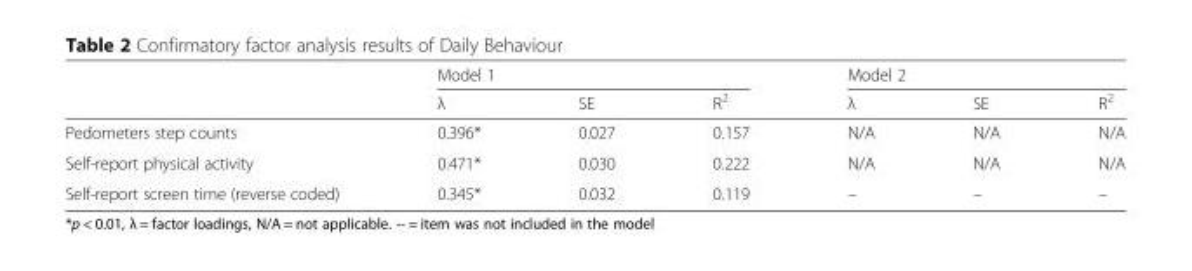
<table><thead><tr><td rowspan="2"></td><td colspan="3">Model 1</td><td colspan="3">Model 2</td></tr><tr><td>λ</td><td>SE</td><td>R<sup>2</sup></td><td>λ</td><td>SE</td><td>R<sup>2</sup></td></tr></thead><tbody><tr><td>Pedometers step counts</td><td>0.396*</td><td>0.027</td><td>0.157</td><td>N/A</td><td>N/A</td><td>N/A</td></tr><tr><td>Self-report physical activity</td><td>0.471*</td><td>0.030</td><td>0.222</td><td>N/A</td><td>N/A</td><td>N/A</td></tr><tr><td>Self-report screen time (reverse coded)</td><td>0.345*</td><td>0.032</td><td>0.119</td><td>–</td><td>–</td><td>–</td></tr></tbody></table>